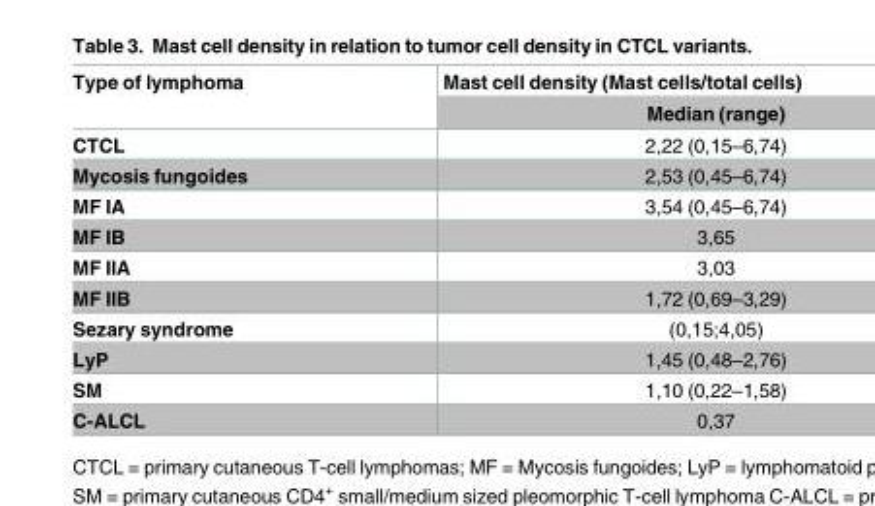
<table><thead><tr><td rowspan="2">Type of lymphoma</td><td rowspan="2">Mast cell density (Mast cells/total cells) Median (range)</td></tr><tr></tr></thead><tbody><tr><td>CTCL</td><td>2,22 (0,15–6,74)</td></tr><tr><td>Mycosis fungoides</td><td>2,53 (0,45–6,74)</td></tr><tr><td>MF IA</td><td>3,54 (0,45–6,74)</td></tr><tr><td>MF IB</td><td>3,65</td></tr><tr><td>MF IIA</td><td>3,03</td></tr><tr><td>MF IIB</td><td>1,72 (0,69–3,29)</td></tr><tr><td>Sezary syndrome</td><td>(0,15;4,05)</td></tr><tr><td>LyP</td><td>1,45 (0,48–2,76)</td></tr><tr><td>SM</td><td>1,10 (0,22–1,58)</td></tr><tr><td>C-ALCL</td><td>0,37</td></tr></tbody></table>